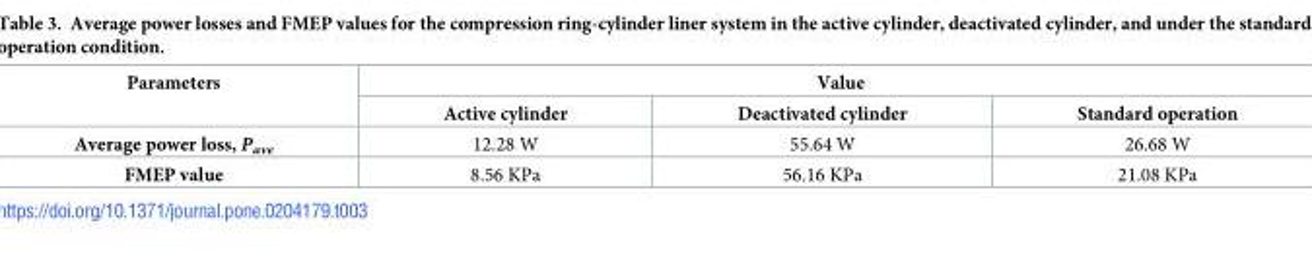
<table><thead><tr><td rowspan="2">Parameters</td><td colspan="3">Value</td></tr><tr><td>Active cylinder</td><td>Deactivated cylinder</td><td>Standard operation</td></tr></thead><tbody><tr><td>Average power loss, P<sub>ave</sub></td><td>12.28 W</td><td>55.64 W</td><td>26.68 W</td></tr><tr><td>FMEP value</td><td>8.56 KPa</td><td>56.16 KPa</td><td>21.08 KPa</td></tr></tbody></table>